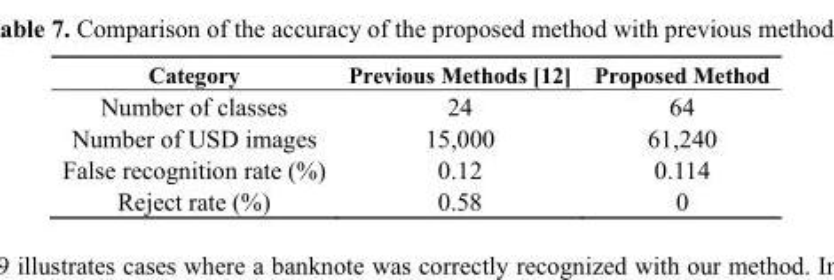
<table><thead><tr><td>Category</td><td>Previous Methods [12]</td><td>Proposed Method</td></tr></thead><tbody><tr><td>Number of classes</td><td>24</td><td>64</td></tr><tr><td>Number of USD images</td><td>15,000</td><td>61,240</td></tr><tr><td>False recognition rate (%)</td><td>0.12</td><td>0.114</td></tr><tr><td>Reject rate (%)</td><td>0.58</td><td>0</td></tr></tbody></table>